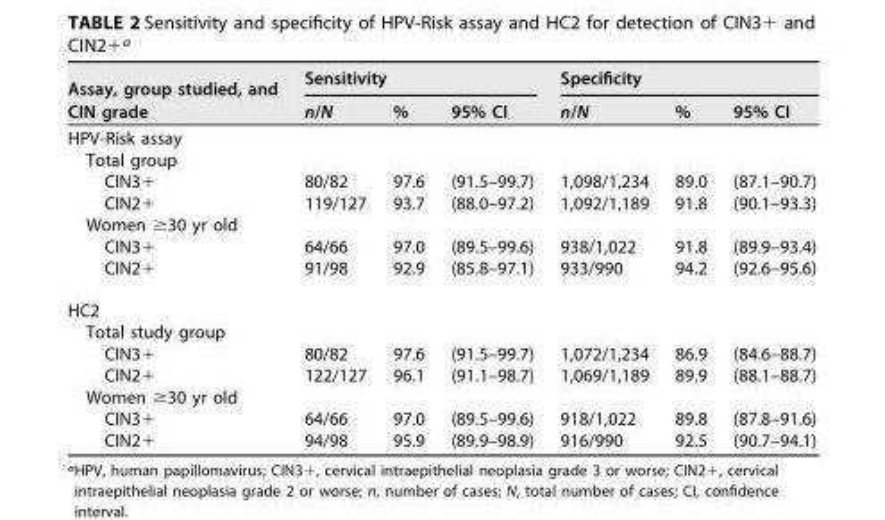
<table><thead><tr><td rowspan="2">Assay, group studied, and CIN grade</td><td colspan="3">Sensitivity</td><td colspan="3">Specificity</td></tr><tr><td>n/N</td><td>%</td><td>95% CI</td><td>n/N</td><td>%</td><td>95% CI</td></tr></thead><tbody><tr><td colspan="7">HPV-Risk assay</td></tr><tr><td colspan="7">Total group</td></tr><tr><td>CIN3+</td><td>80/82</td><td>97.6</td><td>(91.5–99.7)</td><td>1,098/1,234</td><td>89.0</td><td>(87.1–90.7)</td></tr><tr><td>CIN2+</td><td>119/127</td><td>93.7</td><td>(88.0–97.2)</td><td>1,092/1,189</td><td>91.8</td><td>(90.1–93.3)</td></tr><tr><td colspan="7">Women ≥30 yr old</td></tr><tr><td>CIN3+</td><td>64/66</td><td>97.0</td><td>(89.5–99.6)</td><td>938/1,022</td><td>91.8</td><td>(89.9–93.4)</td></tr><tr><td>CIN2+</td><td>91/98</td><td>92.9</td><td>(85.8–97.1)</td><td>933/990</td><td>94.2</td><td>(92.6–95.6)</td></tr><tr><td colspan="7">HC2</td></tr><tr><td colspan="7">Total study group</td></tr><tr><td>CIN3+</td><td>80/82</td><td>97.6</td><td>(91.5–99.7)</td><td>1,072/1,234</td><td>86.9</td><td>(84.6–88.7)</td></tr><tr><td>CIN2+</td><td>122/127</td><td>96.1</td><td>(91.1–98.7)</td><td>1,069/1,189</td><td>89.9</td><td>(88.1–88.7)</td></tr><tr><td colspan="7">Women ≥30 yr old</td></tr><tr><td>CIN3+</td><td>64/66</td><td>97.0</td><td>(89.5–99.6)</td><td>918/1,022</td><td>89.8</td><td>(87.8–91.6)</td></tr><tr><td>CIN2+</td><td>94/98</td><td>95.9</td><td>(89.9–98.9)</td><td>916/990</td><td>92.5</td><td>(90.7–94.1)</td></tr></tbody></table>